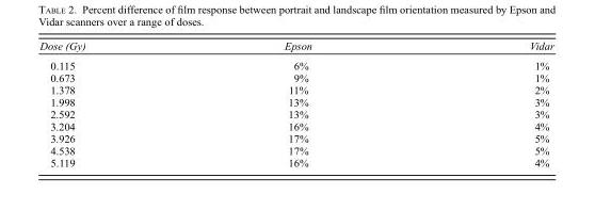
<table><thead><tr><td>Dose (Gy)</td><td>Epson</td><td>Vidar</td></tr></thead><tbody><tr><td>0.115</td><td>6%</td><td>1%</td></tr><tr><td>0.673</td><td>9%</td><td>1%</td></tr><tr><td>1.378</td><td>11%</td><td>2%</td></tr><tr><td>1.998</td><td>13%</td><td>3%</td></tr><tr><td>2.592</td><td>13%</td><td>3%</td></tr><tr><td>3.204</td><td>16%</td><td>4%</td></tr><tr><td>3.926</td><td>17%</td><td>5%</td></tr><tr><td>4.538</td><td>17%</td><td>5%</td></tr><tr><td>5.119</td><td>16%</td><td>4%</td></tr></tbody></table>